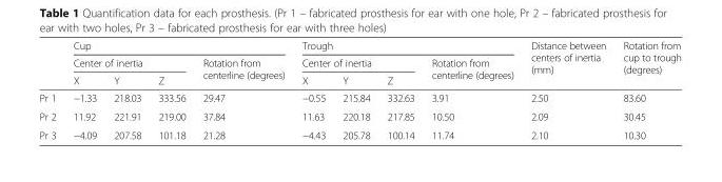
<table><thead><tr><td rowspan="3"></td><td colspan="4">Cup</td><td colspan="4">Trough</td><td rowspan="3">Distance between centers of inertia (mm)</td><td rowspan="3">Rotation from cup to trough (degrees)</td></tr><tr><td colspan="3">Center of inertia</td><td rowspan="2">Rotation from centerline (degrees)</td><td colspan="3">Center of inertia</td><td rowspan="2">Rotation from centerline (degrees)</td></tr><tr><td>X</td><td>Y</td><td>Z</td><td>X</td><td>Y</td><td>Z</td></tr></thead><tbody><tr><td>Pr 1</td><td>−1.33</td><td>218.03</td><td>333.56</td><td>29.47</td><td>−0.55</td><td>215.84</td><td>332.63</td><td>3.91</td><td>2.50</td><td>83.60</td></tr><tr><td>Pr 2</td><td>11.92</td><td>221.91</td><td>219.00</td><td>37.84</td><td>11.63</td><td>220.18</td><td>217.85</td><td>10.50</td><td>2.09</td><td>30.45</td></tr><tr><td>Pr 3</td><td>−4.09</td><td>207.58</td><td>101.18</td><td>21.28</td><td>−4.43</td><td>205.78</td><td>100.14</td><td>11.74</td><td>2.10</td><td>10.30</td></tr></tbody></table>